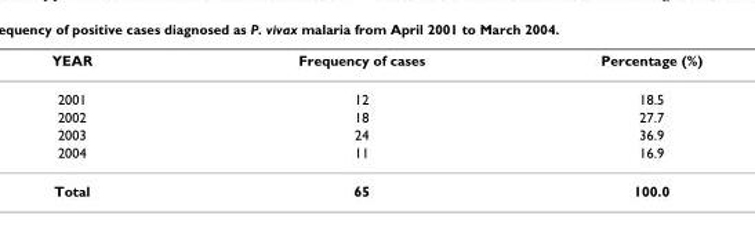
<table><thead><tr><td>YEAR</td><td>Frequency of cases</td><td>Percentage (%)</td></tr></thead><tbody><tr><td>2001</td><td>12</td><td>18.5</td></tr><tr><td>2002</td><td>18</td><td>27.7</td></tr><tr><td>2003</td><td>24</td><td>36.9</td></tr><tr><td>2004</td><td>11</td><td>16.9</td></tr><tr><td>Total</td><td>65</td><td>100.0</td></tr></tbody></table>